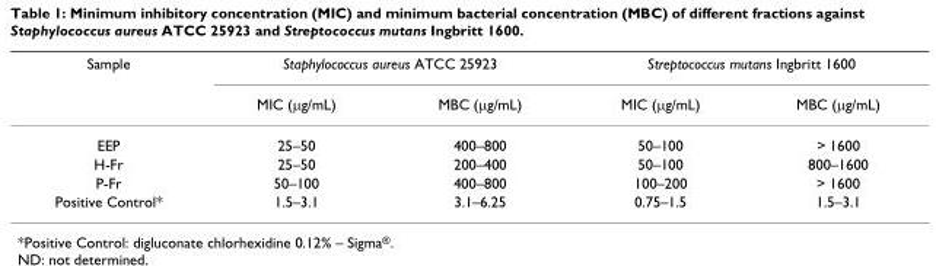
<table><thead><tr><td rowspan="2">Sample</td><td colspan="2">Staphylococcus aureus ATCC 25923</td><td colspan="2">Streptococcus mutans Ingbritt 1600</td></tr><tr><td>MIC (μg/mL)</td><td>MBC (μg/mL)</td><td>MIC (μg/mL)</td><td>MBC (μg/mL)</td></tr></thead><tbody><tr><td>EEP</td><td>25–50</td><td>400–800</td><td>50–100</td><td>&gt; 1600</td></tr><tr><td>H-Fr</td><td>25–50</td><td>200–400</td><td>50–100</td><td>800–1600</td></tr><tr><td>P-Fr</td><td>50–100</td><td>400–800</td><td>100–200</td><td>&gt; 1600</td></tr><tr><td>Positive Control*</td><td>1.5–3.1</td><td>3.1–6.25</td><td>0.75–1.5</td><td>1.5–3.1</td></tr></tbody></table>